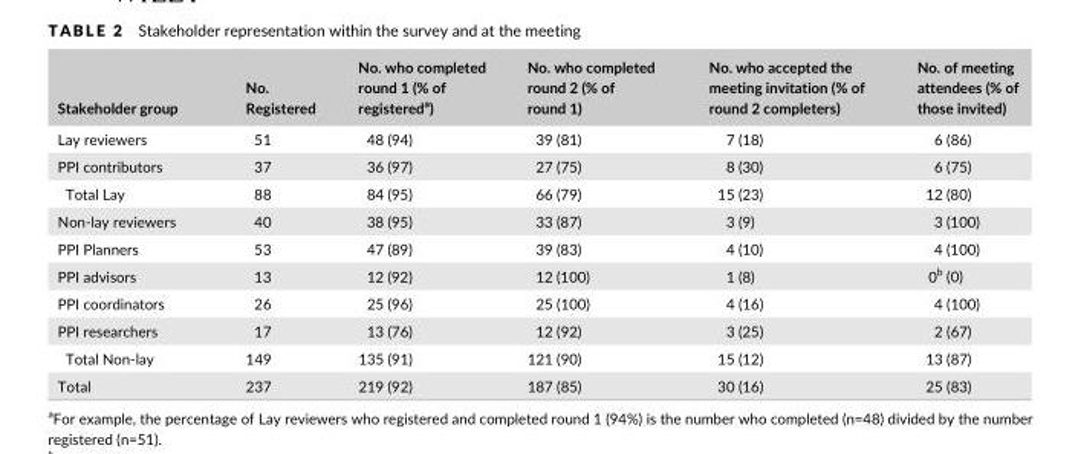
<table><thead><tr><td>Stakeholder group</td><td>No. Registered</td><td>No. who completed round 1 (% of registered<sup>a</sup>)</td><td>No. who completed round 2 (% of round 1)</td><td>No. who accepted the meeting invitation (% of round 2 completers)</td><td>No. of meeting attendees (% of those invited)</td></tr></thead><tbody><tr><td>Lay reviewers</td><td>51</td><td>48 (94)</td><td>39 (81)</td><td>7 (18)</td><td>6 (86)</td></tr><tr><td>PPI contributors</td><td>37</td><td>36 (97)</td><td>27 (75)</td><td>8 (30)</td><td>6 (75)</td></tr><tr><td>Total Lay</td><td>88</td><td>84 (95)</td><td>66 (79)</td><td>15 (23)</td><td>12 (80)</td></tr><tr><td>Non- lay reviewers</td><td>40</td><td>38 (95)</td><td>33 (87)</td><td>3 (9)</td><td>3 (100)</td></tr><tr><td>PPI Planners</td><td>53</td><td>47 (89)</td><td>39 (83)</td><td>4 (10)</td><td>4 (100)</td></tr><tr><td>PPI advisors</td><td>13</td><td>12 (92)</td><td>12 (100)</td><td>1 (8)</td><td>0<sup>b</sup> (0)</td></tr><tr><td>PPI coordinators</td><td>26</td><td>25 (96)</td><td>25 (100)</td><td>4 (16)</td><td>4 (100)</td></tr><tr><td>PPI researchers</td><td>17</td><td>13 (76)</td><td>12 (92)</td><td>3 (25)</td><td>2 (67)</td></tr><tr><td>Total Non- lay</td><td>149</td><td>135 (91)</td><td>121 (90)</td><td>15 (12)</td><td>13 (87)</td></tr><tr><td>Total</td><td>237</td><td>219 (92)</td><td>187 (85)</td><td>30 (16)</td><td>25 (83)</td></tr></tbody></table>